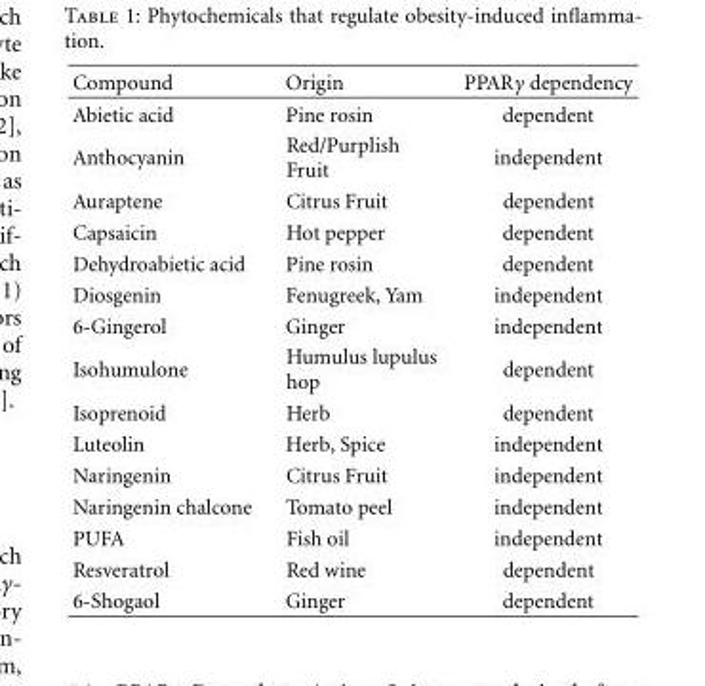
<table><thead><tr><td>Compound</td><td>Origin</td><td>PPARγ dependency</td></tr></thead><tbody><tr><td>Abietic acid</td><td>Pine rosin</td><td>dependent</td></tr><tr><td>Anthocyanin</td><td>Red/Purplish Fruit</td><td>independent</td></tr><tr><td>Auraptene</td><td>Citrus Fruit</td><td>dependent</td></tr><tr><td>Capsaicin</td><td>Hot pepper</td><td>dependent</td></tr><tr><td>Dehydroabietic acid</td><td>Pine rosin</td><td>dependent</td></tr><tr><td>Diosgenin</td><td>Fenugreek, Yam</td><td>independent</td></tr><tr><td>6-Gingerol</td><td>Ginger</td><td>independent</td></tr><tr><td>Isohumulone</td><td>Humulus lupulus hop</td><td>dependent</td></tr><tr><td>Isoprenoid</td><td>Herb</td><td>dependent</td></tr><tr><td>Luteolin</td><td>Herb, Spice</td><td>independent</td></tr><tr><td>Naringenin</td><td>Citrus Fruit</td><td>independent</td></tr><tr><td>Naringenin chalcone</td><td>Tomato peel</td><td>independent</td></tr><tr><td>PUFA</td><td>Fish oil</td><td>independent</td></tr><tr><td>Resveratrol</td><td>Red wine</td><td>dependent</td></tr><tr><td>6-Shogaol</td><td>Ginger</td><td>dependent</td></tr></tbody></table>